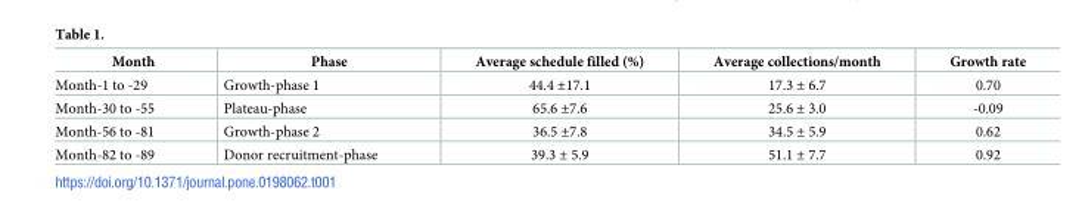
<table><thead><tr><td>Month</td><td>Phase</td><td>Average schedule filled (%)</td><td>Average collections/month</td><td>Growth rate</td></tr></thead><tbody><tr><td>Month-1 to -29</td><td>Growth-phase 1</td><td>44.4 ±17.1</td><td>17.3 ± 6.7</td><td>0.70</td></tr><tr><td>Month-30 to -55</td><td>Plateau-phase</td><td>65.6 ±7.6</td><td>25.6 ± 3.0</td><td>-0.09</td></tr><tr><td>Month-56 to -81</td><td>Growth-phase 2</td><td>36.5 ±7.8</td><td>34.5 ± 5.9</td><td>0.62</td></tr><tr><td>Month-82 to -89</td><td>Donor recruitment-phase</td><td>39.3 ± 5.9</td><td>51.1 ± 7.7</td><td>0.92</td></tr></tbody></table>